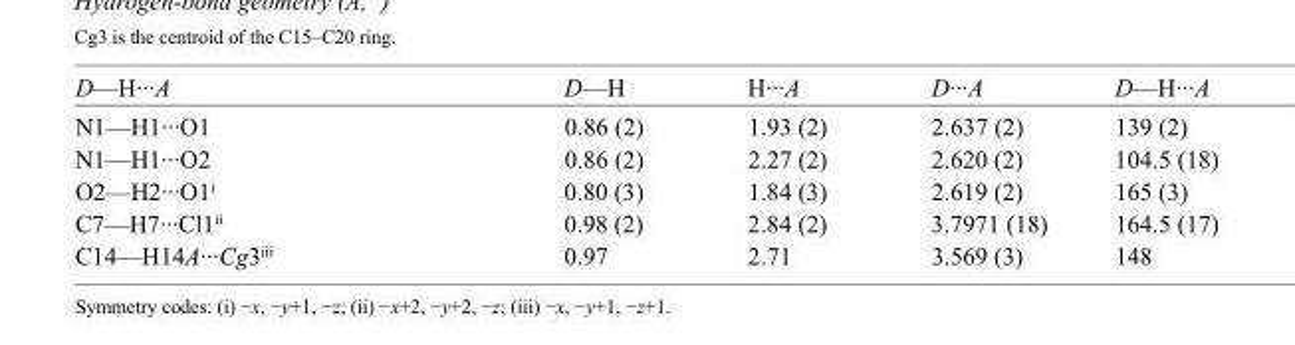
<table><tbody><tr><td>D—H···A</td><td>D—H</td><td>H···A</td><td>D···A</td><td>D—H···A</td></tr><tr><td>N1—H1···O1</td><td>0.86 (2)</td><td>1.93 (2)</td><td>2.637 (2)</td><td>139 (2)</td></tr><tr><td>N1—H1···O2</td><td>0.86 (2)</td><td>2.27 (2)</td><td>2.620 (2)</td><td>104.5 (18)</td></tr><tr><td>O2—H2···O1<sup>i</sup></td><td>0.80 (3)</td><td>1.84 (3)</td><td>2.619 (2)</td><td>165 (3)</td></tr><tr><td>C7—H7···Cl1<sup>ii</sup></td><td>0.98 (2)</td><td>2.84 (2)</td><td>3.7971 (18)</td><td>164.5 (17)</td></tr><tr><td>C14—H14A···Cg3<sup>iii</sup></td><td>0.97</td><td>2.71</td><td>3.569 (3)</td><td>148</td></tr></tbody></table>